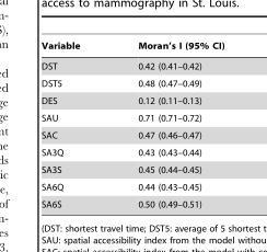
<table><thead><tr><td>Variable</td><td>Moran’s I (95% CI)</td></tr></thead><tbody><tr><td>DST</td><td>0.42 (0.41–0.42)</td></tr><tr><td>DST5</td><td>0.48 (0.47–0.49)</td></tr><tr><td>DES</td><td>0.12 (0.11–0.13)</td></tr><tr><td>SAU</td><td>0.71 (0.71–0.72)</td></tr><tr><td>SAC</td><td>0.47 (0.46–0.47)</td></tr><tr><td>SA3Q</td><td>0.43 (0.43–0.44)</td></tr><tr><td>SA3S</td><td>0.45 (0.44–0.45)</td></tr><tr><td>SA6Q</td><td>0.44 (0.43–0.45)</td></tr><tr><td>SA6S</td><td>0.50 (0.49–0.51)</td></tr></tbody></table>